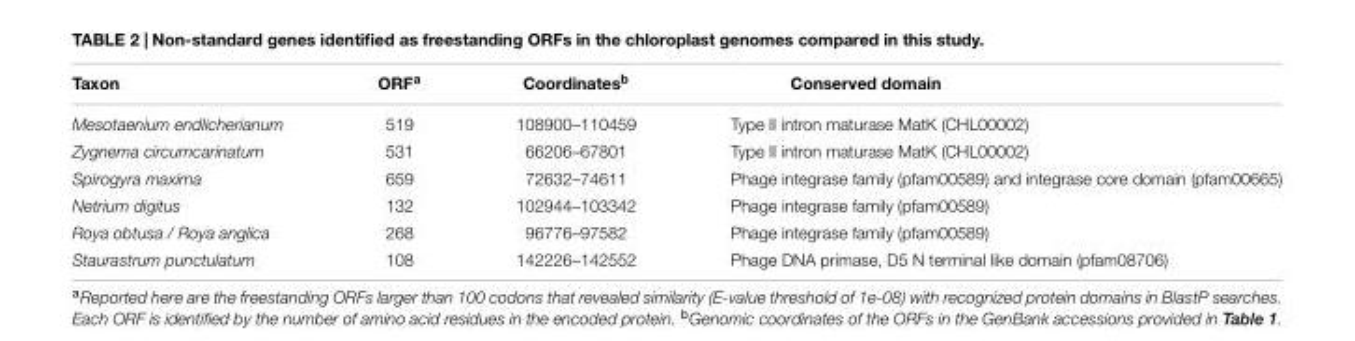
<table><thead><tr><td>Taxon</td><td>ORF<sup>a</sup></td><td>Coordinates<sup>b</sup></td><td>Conserved domain</td></tr></thead><tbody><tr><td>Mesotaenium endlicherianum</td><td>519</td><td>108900–110459</td><td>Type II intron maturase MatK (CHL00002)</td></tr><tr><td>Zygnema circumcarinatum</td><td>531</td><td>66206–67801</td><td>Type II intron maturase MatK (CHL00002)</td></tr><tr><td>Spirogyra maxima</td><td>659</td><td>72632–74611</td><td>Phage integrase family (pfam00589) and integrase core domain (pfam00665)</td></tr><tr><td>Netrium digitus</td><td>132</td><td>102944–103342</td><td>Phage integrase family (pfam00589)</td></tr><tr><td>Roya obtusa / Roya anglica</td><td>268</td><td>96776–97582</td><td>Phage integrase family (pfam00589)</td></tr><tr><td>Staurastrum punctulatum</td><td>108</td><td>142226–142552</td><td>Phage DNA primase, D5 N terminal like domain (pfam08706)</td></tr></tbody></table>